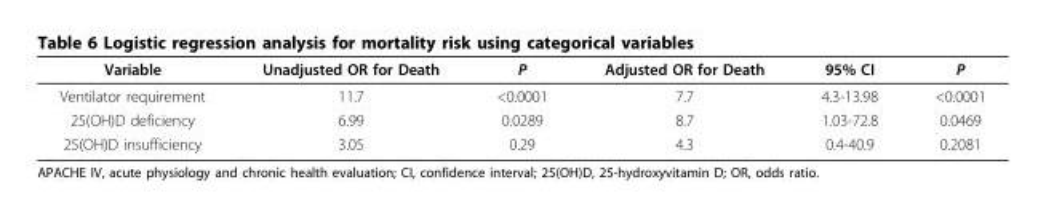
<table><thead><tr><td>Variable</td><td>Unadjusted OR for Death</td><td>P</td><td>Adjusted OR for Death</td><td>95% CI</td><td>P</td></tr></thead><tbody><tr><td>Ventilator requirement</td><td>11.7</td><td>&lt;0.0001</td><td>7.7</td><td>4.3-13.98</td><td>&lt;0.0001</td></tr><tr><td>25(OH)D deficiency</td><td>6.99</td><td>0.0289</td><td>8.7</td><td>1.03-72.8</td><td>0.0469</td></tr><tr><td>25(OH)D insufficiency</td><td>3.05</td><td>0.29</td><td>4.3</td><td>0.4-40.9</td><td>0.2081</td></tr></tbody></table>